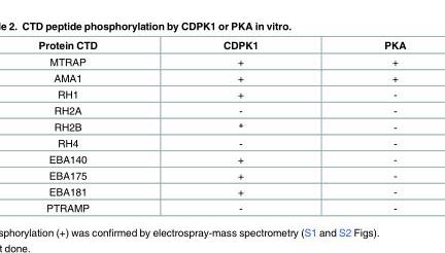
<table><thead><tr><td>Protein CTD</td><td>CDPK1</td><td>PKA</td></tr></thead><tbody><tr><td>MTRAP</td><td>+</td><td>+</td></tr><tr><td>AMA1</td><td>+</td><td>+</td></tr><tr><td>RH1</td><td>+</td><td>-</td></tr><tr><td>RH2A</td><td>-</td><td>-</td></tr><tr><td>RH2B</td><td>*</td><td>-</td></tr><tr><td>RH4</td><td>-</td><td>-</td></tr><tr><td>EBA140</td><td>+</td><td>-</td></tr><tr><td>EBA175</td><td>+</td><td>-</td></tr><tr><td>EBA181</td><td>+</td><td>-</td></tr><tr><td>PTRAMP</td><td>-</td><td>-</td></tr></tbody></table>